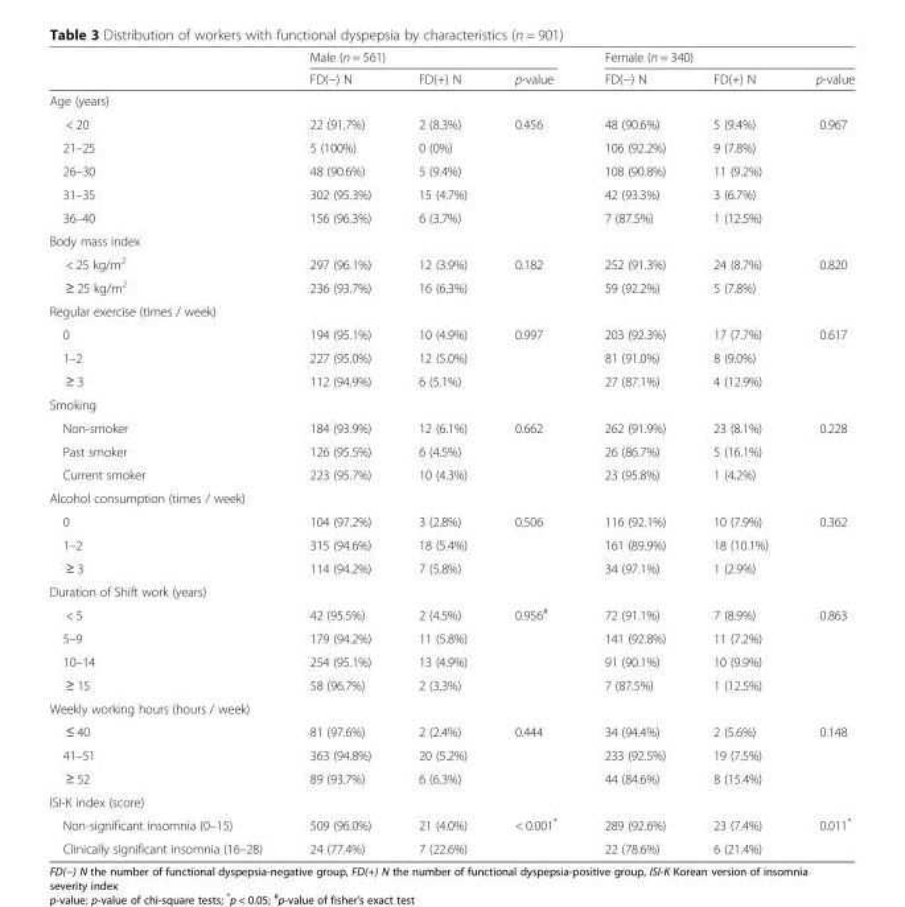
<table><thead><tr><td rowspan="2"></td><td colspan="3">Male (n = 561)</td><td colspan="3">Female (n = 340)</td></tr><tr><td>FD(−) N</td><td>FD(+) N</td><td>p-value</td><td>FD(−) N</td><td>FD(+) N</td><td>p-value</td></tr></thead><tbody><tr><td colspan="7">Age (years)</td></tr><tr><td>&lt; 20</td><td>22 (91.7%)</td><td>2 (8.3%)</td><td>0.456</td><td>48 (90.6%)</td><td>5 (9.4%)</td><td>0.967</td></tr><tr><td>21–25</td><td>5 (100%)</td><td>0 (0%)</td><td></td><td>106 (92.2%)</td><td>9 (7.8%)</td><td></td></tr><tr><td>26–30</td><td>48 (90.6%)</td><td>5 (9.4%)</td><td></td><td>108 (90.8%)</td><td>11 (9.2%)</td><td></td></tr><tr><td>31–35</td><td>302 (95.3%)</td><td>15 (4.7%)</td><td></td><td>42 (93.3%)</td><td>3 (6.7%)</td><td></td></tr><tr><td>36–40</td><td>156 (96.3%)</td><td>6 (3.7%)</td><td></td><td>7 (87.5%)</td><td>1 (12.5%)</td><td></td></tr><tr><td colspan="7">Body mass index</td></tr><tr><td>&lt; 25 kg/m<sup>2</sup></td><td>297 (96.1%)</td><td>12 (3.9%)</td><td>0.182</td><td>252 (91.3%)</td><td>24 (8.7%)</td><td>0.820</td></tr><tr><td>≥ 25 kg/m<sup>2</sup></td><td>236 (93.7%)</td><td>16 (6.3%)</td><td></td><td>59 (92.2%)</td><td>5 (7.8%)</td><td></td></tr><tr><td colspan="7">Regular exercise (times / week)</td></tr><tr><td>0</td><td>194 (95.1%)</td><td>10 (4.9%)</td><td>0.997</td><td>203 (92.3%)</td><td>17 (7.7%)</td><td>0.617</td></tr><tr><td>1–2</td><td>227 (95.0%)</td><td>12 (5.0%)</td><td></td><td>81 (91.0%)</td><td>8 (9.0%)</td><td></td></tr><tr><td>≥ 3</td><td>112 (94.9%)</td><td>6 (5.1%)</td><td></td><td>27 (87.1%)</td><td>4 (12.9%)</td><td></td></tr><tr><td colspan="7">Smoking</td></tr><tr><td>Non-smoker</td><td>184 (93.9%)</td><td>12 (6.1%)</td><td>0.662</td><td>262 (91.9%)</td><td>23 (8.1%)</td><td>0.228</td></tr><tr><td>Past smoker</td><td>126 (95.5%)</td><td>6 (4.5%)</td><td></td><td>26 (86.7%)</td><td>5 (16.1%)</td><td></td></tr><tr><td>Current smoker</td><td>223 (95.7%)</td><td>10 (4.3%)</td><td></td><td>23 (95.8%)</td><td>1 (4.2%)</td><td></td></tr><tr><td colspan="7">Alcohol consumption (times / week)</td></tr><tr><td>0</td><td>104 (97.2%)</td><td>3 (2.8%)</td><td>0.506</td><td>116 (92.1%)</td><td>10 (7.9%)</td><td>0.362</td></tr><tr><td>1–2</td><td>315 (94.6%)</td><td>18 (5.4%)</td><td></td><td>161 (89.9%)</td><td>18 (10.1%)</td><td></td></tr><tr><td>≥ 3</td><td>114 (94.2%)</td><td>7 (5.8%)</td><td></td><td>34 (97.1%)</td><td>1 (2.9%)</td><td></td></tr><tr><td colspan="7">Duration of Shift work (years)</td></tr><tr><td>&lt; 5</td><td>42 (95.5%)</td><td>2 (4.5%)</td><td>0.956<sup>#</sup></td><td>72 (91.1%)</td><td>7 (8.9%)</td><td>0.863</td></tr><tr><td>5–9</td><td>179 (94.2%)</td><td>11 (5.8%)</td><td></td><td>141 (92.8%)</td><td>11 (7.2%)</td><td></td></tr><tr><td>10–14</td><td>254 (95.1%)</td><td>13 (4.9%)</td><td></td><td>91 (90.1%)</td><td>10 (9.9%)</td><td></td></tr><tr><td>≥ 15</td><td>58 (96.7%)</td><td>2 (3.3%)</td><td></td><td>7 (87.5%)</td><td>1 (12.5%)</td><td></td></tr><tr><td colspan="7">Weekly working hours (hours / week)</td></tr><tr><td>≤ 40</td><td>81 (97.6%)</td><td>2 (2.4%)</td><td>0.444</td><td>34 (94.4%)</td><td>2 (5.6%)</td><td>0.148</td></tr><tr><td>41–51</td><td>363 (94.8%)</td><td>20 (5.2%)</td><td></td><td>233 (92.5%)</td><td>19 (7.5%)</td><td></td></tr><tr><td>≥ 52</td><td>89 (93.7%)</td><td>6 (6.3%)</td><td></td><td>44 (84.6%)</td><td>8 (15.4%)</td><td></td></tr><tr><td colspan="7">ISI-K index (score)</td></tr><tr><td>Non-significant insomnia (0–15)</td><td>509 (96.0%)</td><td>21 (4.0%)</td><td>&lt; 0.001*</td><td>289 (92.6%)</td><td>23 (7.4%)</td><td>0.011*</td></tr><tr><td>Clinically significant insomnia (16–28)</td><td>24 (77.4%)</td><td>7 (22.6%)</td><td></td><td>22 (78.6%)</td><td>6 (21.4%)</td><td></td></tr></tbody></table>